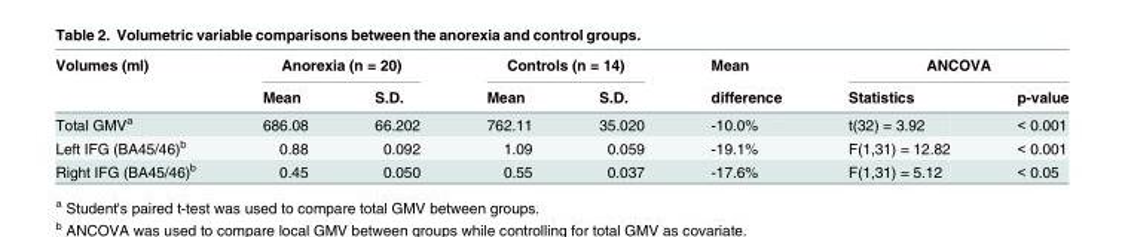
<table><thead><tr><td rowspan="2">Volumes (ml)</td><td colspan="2">Anorexia (n = 20)</td><td colspan="2">Controls (n = 14)</td><td rowspan="2">Mean difference</td><td colspan="2">ANCOVA</td></tr><tr><td>Mean</td><td>S.D.</td><td>Mean</td><td>S.D.</td><td>Statistics</td><td>p-value</td></tr></thead><tbody><tr><td>Total GMV<sup>a</sup></td><td>686.08</td><td>66.202</td><td>762.11</td><td>35.020</td><td>-10.0%</td><td>t(32) = 3.92</td><td>&lt; 0.001</td></tr><tr><td>Left IFG (BA45/46)<sup>b</sup></td><td>0.88</td><td>0.092</td><td>1.09</td><td>0.059</td><td>-19.1%</td><td>F(1,31) = 12.82</td><td>&lt; 0.001</td></tr><tr><td>Right IFG (BA45/46)<sup>b</sup></td><td>0.45</td><td>0.050</td><td>0.55</td><td>0.037</td><td>-17.6%</td><td>F(1,31) = 5.12</td><td>&lt; 0.05</td></tr></tbody></table>